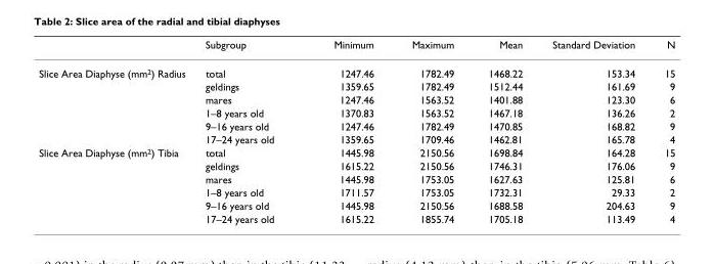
<table><thead><tr><td></td><td>Subgroup</td><td>Minimum</td><td>Maximum</td><td>Mean</td><td>Standard Deviation</td><td>N</td></tr></thead><tbody><tr><td rowspan="6">Slice Area Diaphyse (mm<sup>2</sup>) Radius</td><td>total</td><td>1247.46</td><td>1782.49</td><td>1468.22</td><td>153.34</td><td>15</td></tr><tr><td>geldings</td><td>1359.65</td><td>1782.49</td><td>1512.44</td><td>161.69</td><td>9</td></tr><tr><td>mares</td><td>1247.46</td><td>1563.52</td><td>1401.88</td><td>123.30</td><td>6</td></tr><tr><td>1–8 years old</td><td>1370.83</td><td>1563.52</td><td>1467.18</td><td>136.26</td><td>2</td></tr><tr><td>9–16 years old</td><td>1247.46</td><td>1782.49</td><td>1470.85</td><td>168.82</td><td>9</td></tr><tr><td>17–24 years old</td><td>1359.65</td><td>1709.46</td><td>1462.81</td><td>165.78</td><td>4</td></tr><tr><td rowspan="6">Slice Area Diaphyse (mm<sup>2</sup>) Tibia</td><td>total</td><td>1445.98</td><td>2150.56</td><td>1698.84</td><td>164.28</td><td>15</td></tr><tr><td>geldings</td><td>1615.22</td><td>2150.56</td><td>1746.31</td><td>176.06</td><td>9</td></tr><tr><td>mares</td><td>1445.98</td><td>1753.05</td><td>1627.63</td><td>125.81</td><td>6</td></tr><tr><td>1–8 years old</td><td>1711.57</td><td>1753.05</td><td>1732.31</td><td>29.33</td><td>2</td></tr><tr><td>9–16 years old</td><td>1445.98</td><td>2150.56</td><td>1688.58</td><td>204.63</td><td>9</td></tr><tr><td>17–24 years old</td><td>1615.22</td><td>1855.74</td><td>1705.18</td><td>113.49</td><td>4</td></tr></tbody></table>